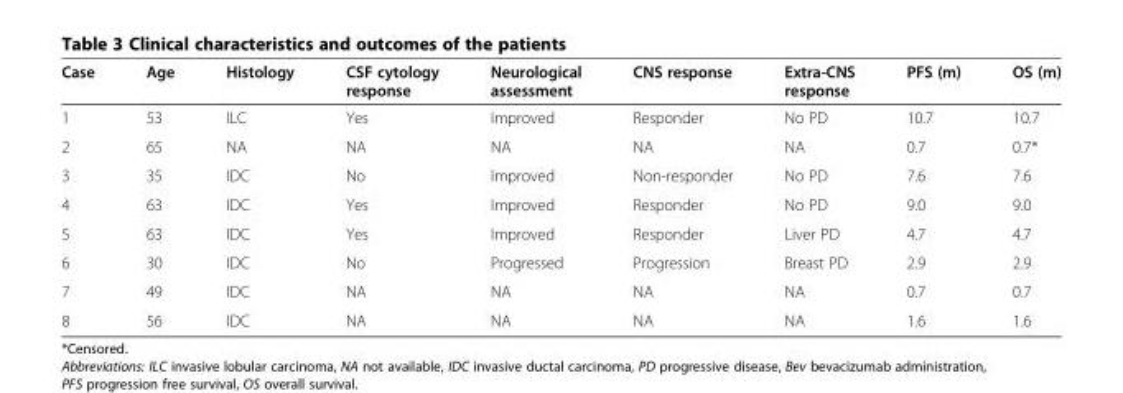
<table><thead><tr><td>Case</td><td>Age</td><td>Histology</td><td>CSF cytology response</td><td>Neurological assessment</td><td>CNS response</td><td>Extra-CNS response</td><td>PFS (m)</td><td>OS (m)</td></tr></thead><tbody><tr><td>1</td><td>53</td><td>ILC</td><td>Yes</td><td>Improved</td><td>Responder</td><td>No PD</td><td>10.7</td><td>10.7</td></tr><tr><td>2</td><td>65</td><td>NA</td><td>NA</td><td>NA</td><td>NA</td><td>NA</td><td>0.7</td><td>0.7*</td></tr><tr><td>3</td><td>35</td><td>IDC</td><td>No</td><td>Improved</td><td>Non-responder</td><td>No PD</td><td>7.6</td><td>7.6</td></tr><tr><td>4</td><td>63</td><td>IDC</td><td>Yes</td><td>Improved</td><td>Responder</td><td>No PD</td><td>9.0</td><td>9.0</td></tr><tr><td>5</td><td>63</td><td>IDC</td><td>Yes</td><td>Improved</td><td>Responder</td><td>Liver PD</td><td>4.7</td><td>4.7</td></tr><tr><td>6</td><td>30</td><td>IDC</td><td>No</td><td>Progressed</td><td>Progression</td><td>Breast PD</td><td>2.9</td><td>2.9</td></tr><tr><td>7</td><td>49</td><td>IDC</td><td>NA</td><td>NA</td><td>NA</td><td>NA</td><td>0.7</td><td>0.7</td></tr><tr><td>8</td><td>56</td><td>IDC</td><td>NA</td><td>NA</td><td>NA</td><td>NA</td><td>1.6</td><td>1.6</td></tr></tbody></table>